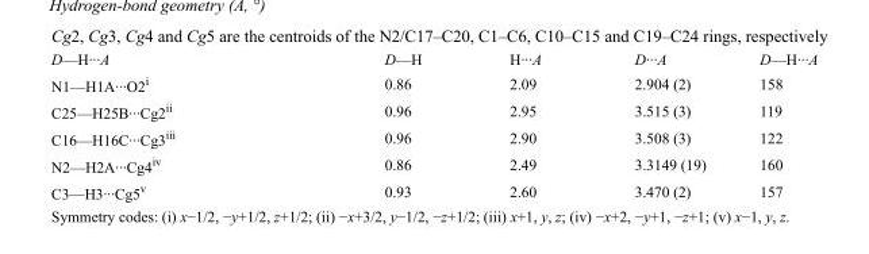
<table><tbody><tr><td>D—H···A</td><td>D—H</td><td>H···A</td><td>D···A</td><td>D—H···A</td></tr><tr><td>N1—H1A···O2<sup>i</sup></td><td>0.86</td><td>2.09</td><td>2.904 (2)</td><td>158</td></tr><tr><td>C25—H25B···Cg2<sup>ii</sup></td><td>0.96</td><td>2.95</td><td>3.515 (3)</td><td>119</td></tr><tr><td>C16—H16C···Cg3<sup>iii</sup></td><td>0.96</td><td>2.90</td><td>3.508 (3)</td><td>122</td></tr><tr><td>N2—H2A···Cg4<sup>iv</sup></td><td>0.86</td><td>2.49</td><td>3.3149 (19)</td><td>160</td></tr><tr><td>C3—H3···Cg5<sup>v</sup></td><td>0.93</td><td>2.60</td><td>3.470 (2)</td><td>157</td></tr></tbody></table>